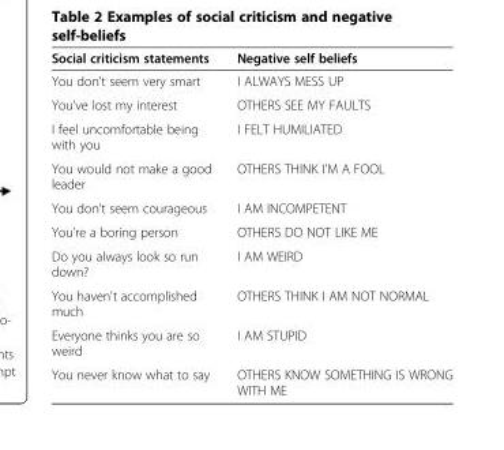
<table><thead><tr><td>Social criticism statements</td><td>Negative self beliefs</td></tr></thead><tbody><tr><td>You don&#x27;t seem very smart</td><td>I ALWAYS MESS UP</td></tr><tr><td>You&#x27;ve lost my interest</td><td>OTHERS SEE MY FAULTS</td></tr><tr><td>I feel uncomfortable being with you</td><td>I FELT HUMILIATED</td></tr><tr><td>You would not make a good leader</td><td>OTHERS THINK I&#x27;M A FOOL</td></tr><tr><td>You don&#x27;t seem courageous</td><td>I AM INCOMPETENT</td></tr><tr><td>You&#x27;re a boring person</td><td>OTHERS DO NOT LIKE ME</td></tr><tr><td>Do you always look so run down?</td><td>I AM WEIRD</td></tr><tr><td>You haven&#x27;t accomplished much</td><td>OTHERS THINK I AM NOT NORMAL</td></tr><tr><td>Everyone thinks you are so weird</td><td>I AM STUPID</td></tr><tr><td>You never know what to say</td><td>OTHERS KNOW SOMETHING IS WRONG WITH ME</td></tr></tbody></table>